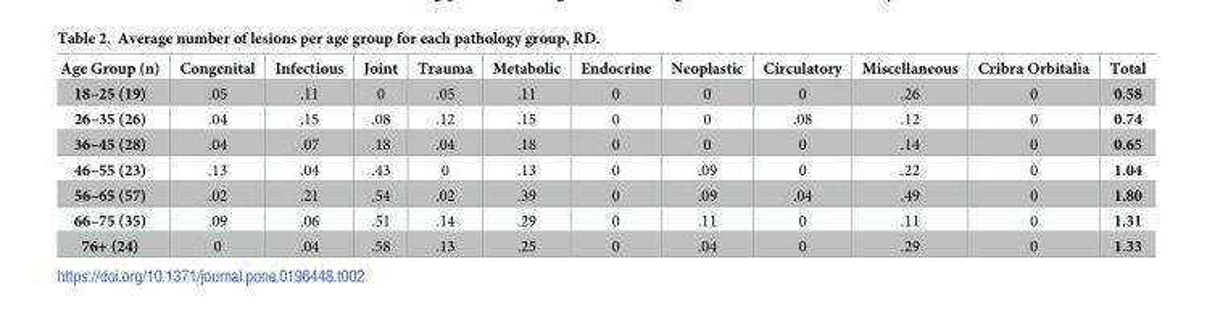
<table><thead><tr><td>Age Group (n)</td><td>Congenital</td><td>Infectious</td><td>Joint</td><td>Trauma</td><td>Metabolic</td><td>Endocrine</td><td>Neoplastic</td><td>Circulatory</td><td>Miscellaneous</td><td>Cribra Orbitalia</td><td>Total</td></tr></thead><tbody><tr><td>18–25 (19)</td><td>.05</td><td>.11</td><td>0</td><td>.05</td><td>.11</td><td>0</td><td>0</td><td>0</td><td>.26</td><td>0</td><td>0.58</td></tr><tr><td>26–35 (26)</td><td>.04</td><td>.15</td><td>.08</td><td>.12</td><td>.15</td><td>0</td><td>0</td><td>.08</td><td>.12</td><td>0</td><td>0.74</td></tr><tr><td>36–45 (28)</td><td>.04</td><td>.07</td><td>.18</td><td>.04</td><td>.18</td><td>0</td><td>0</td><td>0</td><td>.14</td><td>0</td><td>0.65</td></tr><tr><td>46–55 (23)</td><td>.13</td><td>.04</td><td>.43</td><td>0</td><td>.13</td><td>0</td><td>.09</td><td>0</td><td>.22</td><td>0</td><td>1.04</td></tr><tr><td>56–65 (57)</td><td>.02</td><td>.21</td><td>.54</td><td>.02</td><td>.39</td><td>0</td><td>.09</td><td>.04</td><td>.49</td><td>0</td><td>1.80</td></tr><tr><td>66–75 (35)</td><td>.09</td><td>.06</td><td>.51</td><td>.14</td><td>.29</td><td>0</td><td>.11</td><td>0</td><td>.11</td><td>0</td><td>1.31</td></tr><tr><td>76+ (24)</td><td>0</td><td>.04</td><td>.58</td><td>.13</td><td>.25</td><td>0</td><td>.04</td><td>0</td><td>.29</td><td>0</td><td>1.33</td></tr></tbody></table>